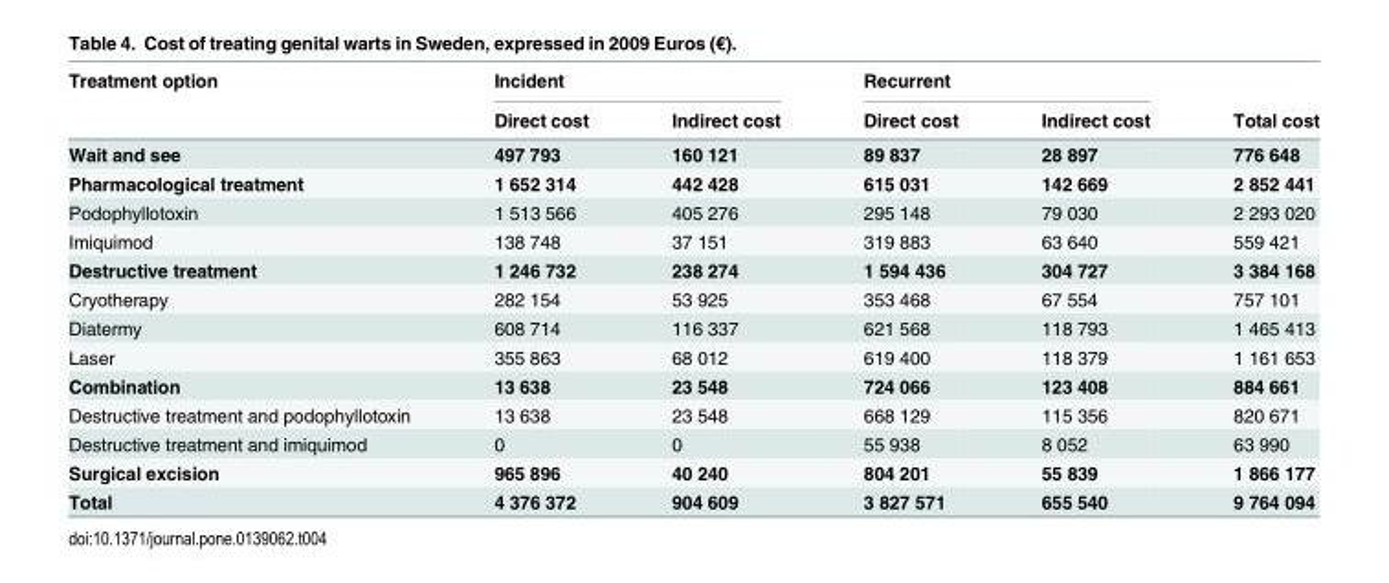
<table><thead><tr><td rowspan="2">Treatment option</td><td colspan="2">Incident</td><td colspan="2">Recurrent</td><td rowspan="2">Total cost</td></tr><tr><td>Direct cost</td><td>Indirect cost</td><td>Direct cost</td><td>Indirect cost</td></tr></thead><tbody><tr><td>Wait and see</td><td>497 793</td><td>160 121</td><td>89 837</td><td>28 897</td><td>776 648</td></tr><tr><td>Pharmacological treatment</td><td>1 652 314</td><td>442 428</td><td>615 031</td><td>142 669</td><td>2 852 441</td></tr><tr><td>Podophyllotoxin</td><td>1 513 566</td><td>405 276</td><td>295 148</td><td>79 030</td><td>2 293 020</td></tr><tr><td>Imiquimod</td><td>138 748</td><td>37 151</td><td>319 883</td><td>63 640</td><td>559 421</td></tr><tr><td>Destructive treatment</td><td>1 246 732</td><td>238 274</td><td>1 594 436</td><td>304 727</td><td>3 384 168</td></tr><tr><td>Cryotherapy</td><td>282 154</td><td>53 925</td><td>353 468</td><td>67 554</td><td>757 101</td></tr><tr><td>Diatermy</td><td>608 714</td><td>116 337</td><td>621 568</td><td>118 793</td><td>1 465 413</td></tr><tr><td>Laser</td><td>355 863</td><td>68 012</td><td>619 400</td><td>118 379</td><td>1 161 653</td></tr><tr><td>Combination</td><td>13 638</td><td>23 548</td><td>724 066</td><td>123 408</td><td>884 661</td></tr><tr><td>Destructive treatment and podophyllotoxin</td><td>13 638</td><td>23 548</td><td>668 129</td><td>115 356</td><td>820 671</td></tr><tr><td>Destructive treatment and imiquimod</td><td>0</td><td>0</td><td>55 938</td><td>8 052</td><td>63 990</td></tr><tr><td>Surgical excision</td><td>965 896</td><td>40 240</td><td>804 201</td><td>55 839</td><td>1 866 177</td></tr><tr><td>Total</td><td>4 376 372</td><td>904 609</td><td>3 827 571</td><td>655 540</td><td>9 764 094</td></tr></tbody></table>